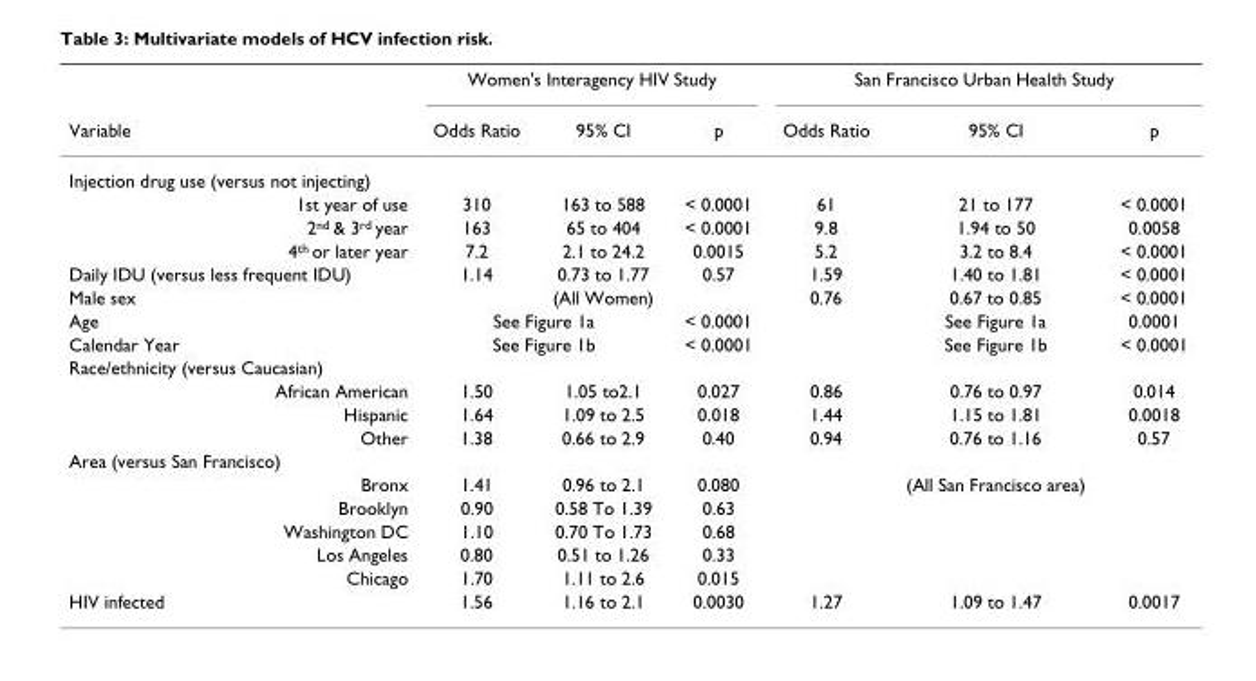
<table><thead><tr><td rowspan="2">Variable</td><td colspan="3">Women&#x27;s Interagency HIV Study</td><td colspan="3">San Francisco Urban Health Study</td></tr><tr><td>Odds Ratio</td><td>95% CI</td><td>p</td><td>Odds Ratio</td><td>95% CI</td><td>p</td></tr></thead><tbody><tr><td colspan="7">Injection drug use (versus not injecting)</td></tr><tr><td>1st year of use</td><td>310</td><td>163 to 588</td><td>&lt; 0.0001</td><td>61</td><td>21 to 177</td><td>&lt; 0.0001</td></tr><tr><td>2<sup>nd</sup> &amp; 3<sup>rd</sup> year</td><td>163</td><td>65 to 404</td><td>&lt; 0.0001</td><td>9.8</td><td>1.94 to 50</td><td>0.0058</td></tr><tr><td>4<sup>th</sup> or later year</td><td>7.2</td><td>2.1 to 24.2</td><td>0.0015</td><td>5.2</td><td>3.2 to 8.4</td><td>&lt; 0.0001</td></tr><tr><td>Daily IDU (versus less frequent IDU)</td><td>1.14</td><td>0.73 to 1.77</td><td>0.57</td><td>1.59</td><td>1.40 to 1.81</td><td>&lt; 0.0001</td></tr><tr><td>Male sex</td><td></td><td>(All Women)</td><td></td><td>0.76</td><td>0.67 to 0.85</td><td>&lt; 0.0001</td></tr><tr><td>Age</td><td colspan="2">See Figure 1a</td><td>&lt; 0.0001</td><td></td><td>See Figure 1a</td><td>0.0001</td></tr><tr><td>Calendar Year</td><td colspan="2">See Figure 1b</td><td>&lt; 0.0001</td><td></td><td>See Figure 1b</td><td>&lt; 0.0001</td></tr><tr><td colspan="7">Race/ethnicity (versus Caucasian)</td></tr><tr><td>African American</td><td>1.50</td><td>1.05 to2.1</td><td>0.027</td><td>0.86</td><td>0.76 to 0.97</td><td>0.014</td></tr><tr><td>Hispanic</td><td>1.64</td><td>1.09 to 2.5</td><td>0.018</td><td>1.44</td><td>1.15 to 1.81</td><td>0.0018</td></tr><tr><td>Other</td><td>1.38</td><td>0.66 to 2.9</td><td>0.40</td><td>0.94</td><td>0.76 to 1.16</td><td>0.57</td></tr><tr><td colspan="7">Area (versus San Francisco)</td></tr><tr><td>Bronx</td><td>1.41</td><td>0.96 to 2.1</td><td>0.080</td><td></td><td>(All San Francisco area)</td><td></td></tr><tr><td>Brooklyn</td><td>0.90</td><td>0.58 To 1.39</td><td>0.63</td><td></td><td></td><td></td></tr><tr><td>Washington DC</td><td>1.10</td><td>0.70 To 1.73</td><td>0.68</td><td></td><td></td><td></td></tr><tr><td>Los Angeles</td><td>0.80</td><td>0.51 to 1.26</td><td>0.33</td><td></td><td></td><td></td></tr><tr><td>Chicago</td><td>1.70</td><td>1.11 to 2.6</td><td>0.015</td><td></td><td></td><td></td></tr><tr><td>HIV infected</td><td>1.56</td><td>1.16 to 2.1</td><td>0.0030</td><td>1.27</td><td>1.09 to 1.47</td><td>0.0017</td></tr></tbody></table>